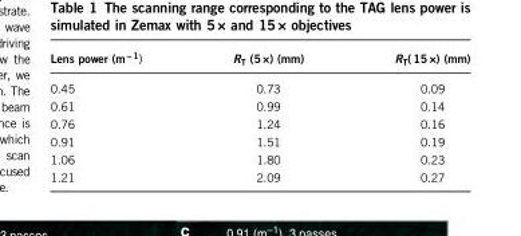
<table><thead><tr><td>Lens power (m<sup>− 1</sup>)</td><td>R<sub>T</sub> (5×) (mm)</td><td>R<sub>T</sub>( 15×) (mm)</td></tr></thead><tbody><tr><td>0.45</td><td>0.73</td><td>0.09</td></tr><tr><td>0.61</td><td>0.99</td><td>0.14</td></tr><tr><td>0.76</td><td>1.24</td><td>0.16</td></tr><tr><td>0.91</td><td>1.51</td><td>0.19</td></tr><tr><td>1.06</td><td>1.80</td><td>0.23</td></tr><tr><td>1.21</td><td>2.09</td><td>0.27</td></tr></tbody></table>